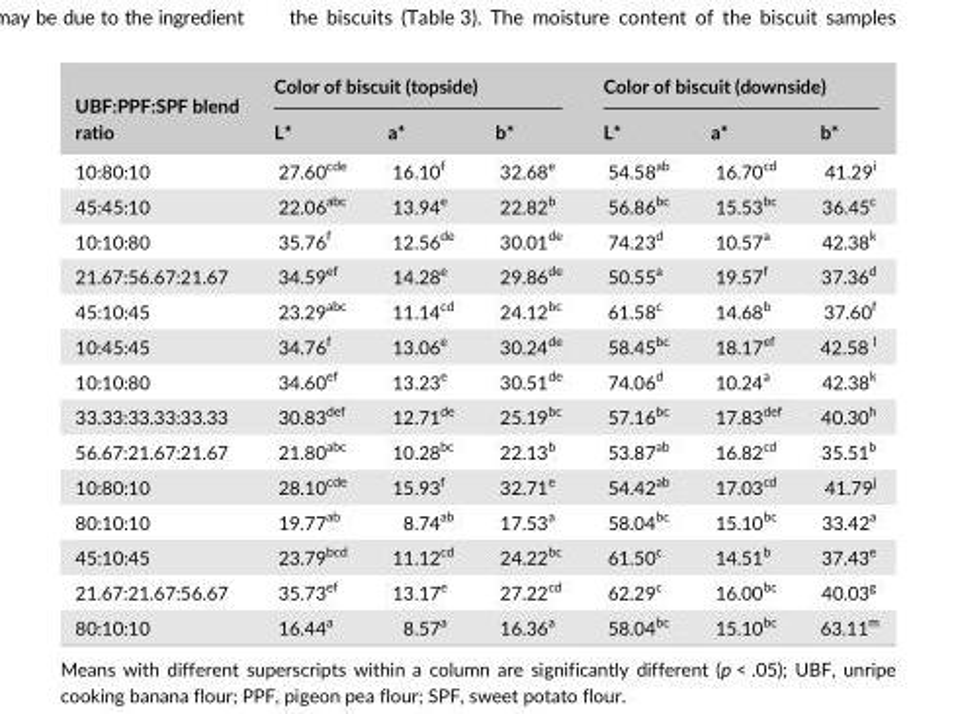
<table><thead><tr><td rowspan="2">UBF:PPF:SPF blend ratio</td><td colspan="3">Color of biscuit (topside)</td><td colspan="3">Color of biscuit (downside)</td></tr><tr><td>L*</td><td>a*</td><td>b*</td><td>L*</td><td>a*</td><td>b*</td></tr></thead><tbody><tr><td>10:80:10</td><td>27.60<sup>cde</sup></td><td>16.10<sup>f</sup></td><td>32.68<sup>e</sup></td><td>54.58<sup>ab</sup></td><td>16.70<sup>cd</sup></td><td>41.29<sup>i</sup></td></tr><tr><td>45:45:10</td><td>22.06<sup>abc</sup></td><td>13.94<sup>e</sup></td><td>22.82<sup>b</sup></td><td>56.86<sup>bc</sup></td><td>15.53<sup>bc</sup></td><td>36.45<sup>c</sup></td></tr><tr><td>10:10:80</td><td>35.76<sup>f</sup></td><td>12.56<sup>de</sup></td><td>30.01<sup>de</sup></td><td>74.23<sup>d</sup></td><td>10.57<sup>a</sup></td><td>42.38<sup>k</sup></td></tr><tr><td>21.67:56.67:21.67</td><td>34.59<sup>ef</sup></td><td>14.28<sup>e</sup></td><td>29.86<sup>de</sup></td><td>50.55<sup>a</sup></td><td>19.57<sup>f</sup></td><td>37.36<sup>d</sup></td></tr><tr><td>45:10:45</td><td>23.29<sup>abc</sup></td><td>11.14<sup>cd</sup></td><td>24.12<sup>bc</sup></td><td>61.58<sup>c</sup></td><td>14.68<sup>b</sup></td><td>37.60<sup>f</sup></td></tr><tr><td>10:45:45</td><td>34.76<sup>f</sup></td><td>13.06<sup>e</sup></td><td>30.24<sup>de</sup></td><td>58.45<sup>bc</sup></td><td>18.17<sup>ef</sup></td><td>42.58 <sup>l</sup></td></tr><tr><td>10:10:80</td><td>34.60<sup>ef</sup></td><td>13.23<sup>e</sup></td><td>30.51<sup>de</sup></td><td>74.06<sup>d</sup></td><td>10.24<sup>a</sup></td><td>42.38<sup>k</sup></td></tr><tr><td>33.33:33.33:33.33</td><td>30.83<sup>def</sup></td><td>12.71<sup>de</sup></td><td>25.19<sup>bc</sup></td><td>57.16<sup>bc</sup></td><td>17.83<sup>def</sup></td><td>40.30<sup>h</sup></td></tr><tr><td>56.67:21.67:21.67</td><td>21.80<sup>abc</sup></td><td>10.28<sup>bc</sup></td><td>22.13<sup>b</sup></td><td>53.87<sup>ab</sup></td><td>16.82<sup>cd</sup></td><td>35.51<sup>b</sup></td></tr><tr><td>10:80:10</td><td>28.10<sup>cde</sup></td><td>15.93<sup>f</sup></td><td>32.71<sup>e</sup></td><td>54.42<sup>ab</sup></td><td>17.03<sup>cd</sup></td><td>41.79<sup>j</sup></td></tr><tr><td>80:10:10</td><td>19.77<sup>ab</sup></td><td>8.74<sup>ab</sup></td><td>17.53<sup>a</sup></td><td>58.04<sup>bc</sup></td><td>15.10<sup>bc</sup></td><td>33.42<sup>a</sup></td></tr><tr><td>45:10:45</td><td>23.79<sup>bcd</sup></td><td>11.12<sup>cd</sup></td><td>24.22<sup>bc</sup></td><td>61.50<sup>c</sup></td><td>14.51<sup>b</sup></td><td>37.43<sup>e</sup></td></tr><tr><td>21.67:21.67:56.67</td><td>35.73<sup>ef</sup></td><td>13.17<sup>e</sup></td><td>27.22<sup>cd</sup></td><td>62.29<sup>c</sup></td><td>16.00<sup>bc</sup></td><td>40.03<sup>g</sup></td></tr><tr><td>80:10:10</td><td>16.44<sup>a</sup></td><td>8.57<sup>a</sup></td><td>16.36<sup>a</sup></td><td>58.04<sup>bc</sup></td><td>15.10<sup>bc</sup></td><td>63.11<sup>m</sup></td></tr></tbody></table>